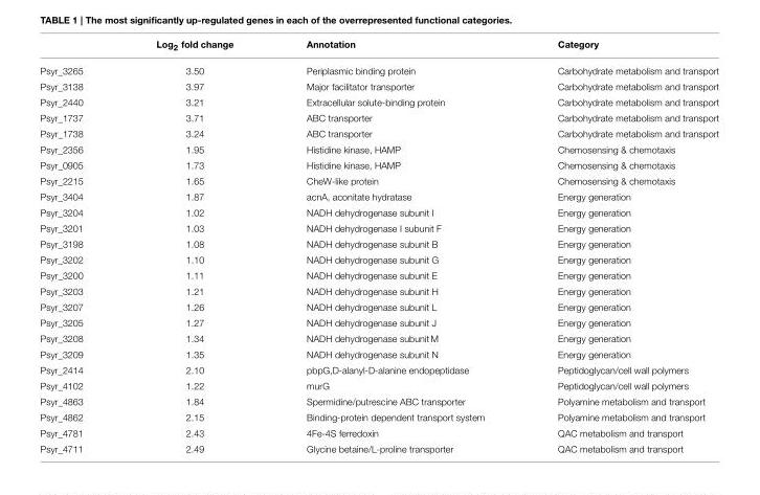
<table><thead><tr><td></td><td>Log<sub>2</sub> fold change</td><td>Annotation</td><td>Category</td></tr></thead><tbody><tr><td>Psyr_3265</td><td>3.50</td><td>Periplasmic binding protein</td><td>Carbohydrate metabolism and transport</td></tr><tr><td>Psyr_3138</td><td>3.97</td><td>Major facilitator transporter</td><td>Carbohydrate metabolism and transport</td></tr><tr><td>Psyr_2440</td><td>3.21</td><td>Extracellular solute-binding protein</td><td>Carbohydrate metabolism and transport</td></tr><tr><td>Psyr_1737</td><td>3.71</td><td>ABC transporter</td><td>Carbohydrate metabolism and transport</td></tr><tr><td>Psyr_1738</td><td>3.24</td><td>ABC transporter</td><td>Carbohydrate metabolism and transport</td></tr><tr><td>Psyr_2356</td><td>1.95</td><td>Histidine kinase, HAMP</td><td>Chemosensing &amp; chemotaxis</td></tr><tr><td>Psyr_0905</td><td>1.73</td><td>Histidine kinase, HAMP</td><td>Chemosensing &amp; chemotaxis</td></tr><tr><td>Psyr_2215</td><td>1.65</td><td>CheW-like protein</td><td>Chemosensing &amp; chemotaxis</td></tr><tr><td>Psyr_3404</td><td>1.87</td><td>acnA, aconitate hydratase</td><td>Energy generation</td></tr><tr><td>Psyr_3204</td><td>1.02</td><td>NADH dehydrogenase subunit I</td><td>Energy generation</td></tr><tr><td>Psyr_3201</td><td>1.03</td><td>NADH dehydrogenase I subunit F</td><td>Energy generation</td></tr><tr><td>Psyr_3198</td><td>1.08</td><td>NADH dehydrogenase subunit B</td><td>Energy generation</td></tr><tr><td>Psyr_3202</td><td>1.10</td><td>NADH dehydrogenase subunit G</td><td>Energy generation</td></tr><tr><td>Psyr_3200</td><td>1.11</td><td>NADH dehydrogenase subunit E</td><td>Energy generation</td></tr><tr><td>Psyr_3203</td><td>1.21</td><td>NADH dehydrogenase subunit H</td><td>Energy generation</td></tr><tr><td>Psyr_3207</td><td>1.26</td><td>NADH dehydrogenase subunit L</td><td>Energy generation</td></tr><tr><td>Psyr_3205</td><td>1.27</td><td>NADH dehydrogenase subunit J</td><td>Energy generation</td></tr><tr><td>Psyr_3208</td><td>1.34</td><td>NADH dehydrogenase subunit M</td><td>Energy generation</td></tr><tr><td>Psyr_3209</td><td>1.35</td><td>NADH dehydrogenase subunit N</td><td>Energy generation</td></tr><tr><td>Psyr_2414</td><td>2.10</td><td>pbpG,D-alanyl-D-alanine endopeptidase</td><td>Peptidoglycan/cell wall polymers</td></tr><tr><td>Psyr_4102</td><td>1.22</td><td>murG</td><td>Peptidoglycan/cell wall polymers</td></tr><tr><td>Psyr_4863</td><td>1.84</td><td>Spermidine/putrescine ABC transporter</td><td>Polyamine metabolism and transport</td></tr><tr><td>Psyr_4862</td><td>2.15</td><td>Binding-protein dependent transport system</td><td>Polyamine metabolism and transport</td></tr><tr><td>Psyr_4781</td><td>2.43</td><td>4Fe-4S ferredoxin</td><td>QAC metabolism and transport</td></tr><tr><td>Psyr_4711</td><td>2.49</td><td>Glycine betaine/L-proline transporter</td><td>QAC metabolism and transport</td></tr></tbody></table>